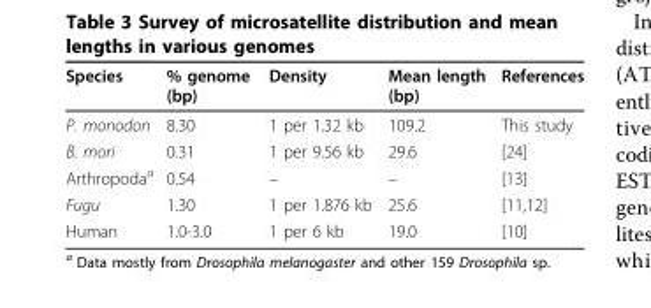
<table><thead><tr><td>Species</td><td>% genome (bp)</td><td>Density</td><td>Mean length (bp)</td><td>References</td></tr></thead><tbody><tr><td>P. monodon</td><td>8.30</td><td>1 per 1.32 kb</td><td>109.2</td><td>This study</td></tr><tr><td>B. mori</td><td>0.31</td><td>1 per 9.56 kb</td><td>29.6</td><td>[24]</td></tr><tr><td>Arthropoda<sup>a</sup></td><td>0.54</td><td>–</td><td>–</td><td>[13]</td></tr><tr><td>Fugu</td><td>1.30</td><td>1 per 1.876 kb</td><td>25.6</td><td>[11,12]</td></tr><tr><td>Human</td><td>1.0-3.0</td><td>1 per 6 kb</td><td>19.0</td><td>[10]</td></tr></tbody></table>